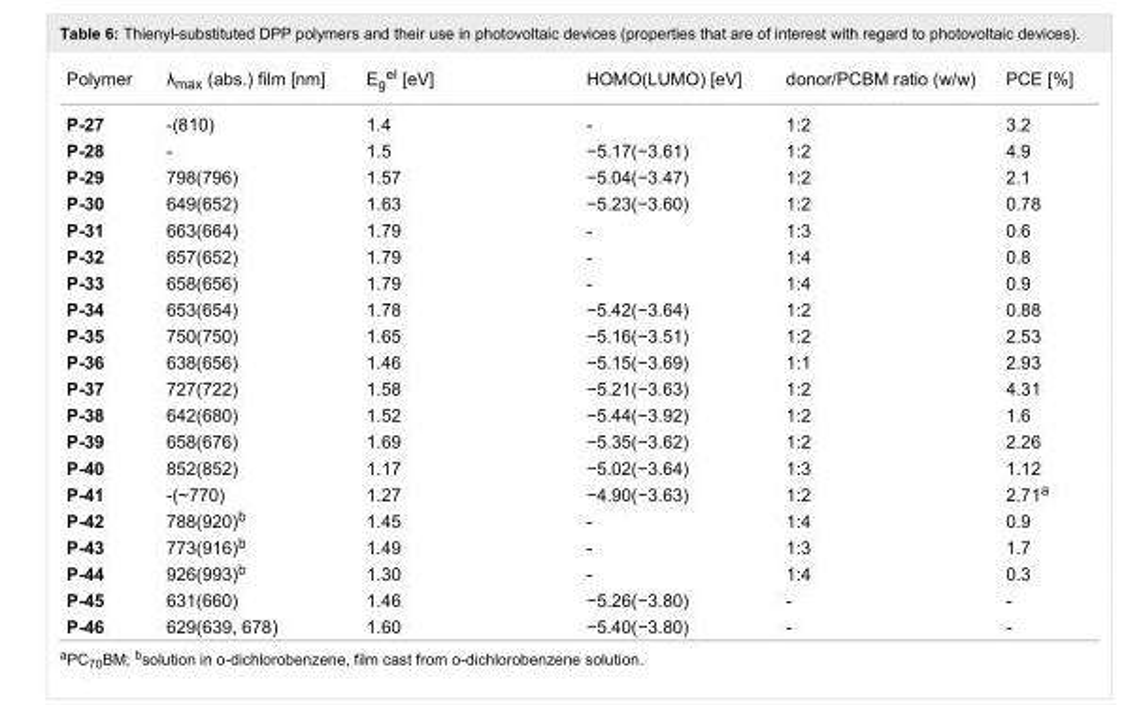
<table><tbody><tr><td>Polymer</td><td>λ<sub>max</sub> (abs.) film [nm]</td><td>E<sub>g</sub><sup>el</sup> [eV]</td><td>HOMO(LUMO) [eV]</td><td>donor/PCBM ratio (w/w)</td><td>PCE [%]</td></tr><tr><td>P-27</td><td>-(810)</td><td>1.4</td><td>-</td><td>1:2</td><td>3.2</td></tr><tr><td>P-28</td><td>-</td><td>1.5</td><td>−5.17(−3.61)</td><td>1:2</td><td>4.9</td></tr><tr><td>P-29</td><td>798(796)</td><td>1.57</td><td>−5.04(−3.47)</td><td>1:2</td><td>2.1</td></tr><tr><td>P-30</td><td>649(652)</td><td>1.63</td><td>−5.23(−3.60)</td><td>1:2</td><td>0.78</td></tr><tr><td>P-31</td><td>663(664)</td><td>1.79</td><td>-</td><td>1:3</td><td>0.6</td></tr><tr><td>P-32</td><td>657(652)</td><td>1.79</td><td>-</td><td>1:4</td><td>0.8</td></tr><tr><td>P-33</td><td>658(656)</td><td>1.79</td><td>-</td><td>1:4</td><td>0.9</td></tr><tr><td>P-34</td><td>653(654)</td><td>1.78</td><td>−5.42(−3.64)</td><td>1:2</td><td>0.88</td></tr><tr><td>P-35</td><td>750(750)</td><td>1.65</td><td>−5.16(−3.51)</td><td>1:2</td><td>2.53</td></tr><tr><td>P-36</td><td>638(656)</td><td>1.46</td><td>−5.15(−3.69)</td><td>1:1</td><td>2.93</td></tr><tr><td>P-37</td><td>727(722)</td><td>1.58</td><td>−5.21(−3.63)</td><td>1:2</td><td>4.31</td></tr><tr><td>P-38</td><td>642(680)</td><td>1.52</td><td>−5.44(−3.92)</td><td>1:2</td><td>1.6</td></tr><tr><td>P-39</td><td>658(676)</td><td>1.69</td><td>−5.35(−3.62)</td><td>1:2</td><td>2.26</td></tr><tr><td>P-40</td><td>852(852)</td><td>1.17</td><td>−5.02(−3.64)</td><td>1:3</td><td>1.12</td></tr><tr><td>P-41</td><td>-(~770)</td><td>1.27</td><td>−4.90(−3.63)</td><td>1:2</td><td>2.71<sup>a</sup></td></tr><tr><td>P-42</td><td>788(920)<sup>b</sup></td><td>1.45</td><td>-</td><td>1:4</td><td>0.9</td></tr><tr><td>P-43</td><td>773(916)<sup>b</sup></td><td>1.49</td><td>-</td><td>1:3</td><td>1.7</td></tr><tr><td>P-44</td><td>926(993)<sup>b</sup></td><td>1.30</td><td>-</td><td>1:4</td><td>0.3</td></tr><tr><td>P-45</td><td>631(660)</td><td>1.46</td><td>−5.26(−3.80)</td><td>-</td><td>-</td></tr><tr><td>P-46</td><td>629(639, 678)</td><td>1.60</td><td>−5.40(−3.80)</td><td>-</td><td>-</td></tr></tbody></table>